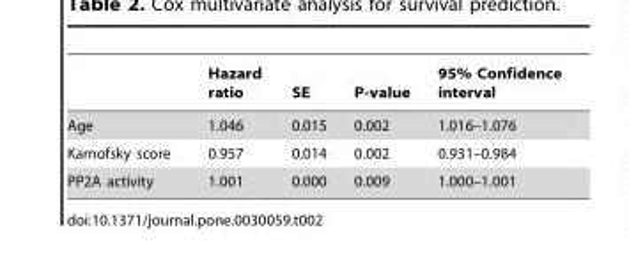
<table><thead><tr><td></td><td>Hazard ratio</td><td>SE</td><td>P-value</td><td>95% Confidence interval</td></tr></thead><tbody><tr><td>Age</td><td>1.046</td><td>0.015</td><td>0.002</td><td>1.016–1.076</td></tr><tr><td>Karnofsky score</td><td>0.957</td><td>0.014</td><td>0.002</td><td>0.931–0.984</td></tr><tr><td>PP2A activity</td><td>1.001</td><td>0.000</td><td>0.009</td><td>1.000–1.001</td></tr></tbody></table>